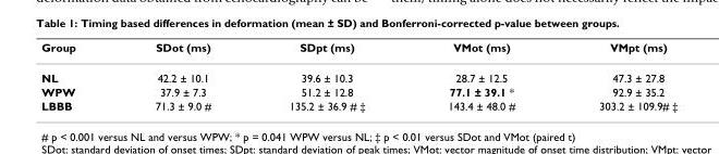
<table><thead><tr><td>Group</td><td>SDot (ms)</td><td>SDpt (ms)</td><td>VMot (ms)</td><td>VMpt (ms)</td></tr></thead><tbody><tr><td>NL</td><td>42.2 ± 10.1</td><td>39.6 ± 10.3</td><td>28.7 ± 12.5</td><td>47.3 ± 27.8</td></tr><tr><td>WPW</td><td>37.9 ± 7.3</td><td>51.2 ± 12.8</td><td>77.1 ± 39.1 *</td><td>92.9 ± 35.2</td></tr><tr><td>LBBB</td><td>71.3 ± 9.0 #</td><td>135.2 ± 36.9 # ‡</td><td>143.4 ± 48.0 #</td><td>303.2 ± 109.9# ‡</td></tr></tbody></table>